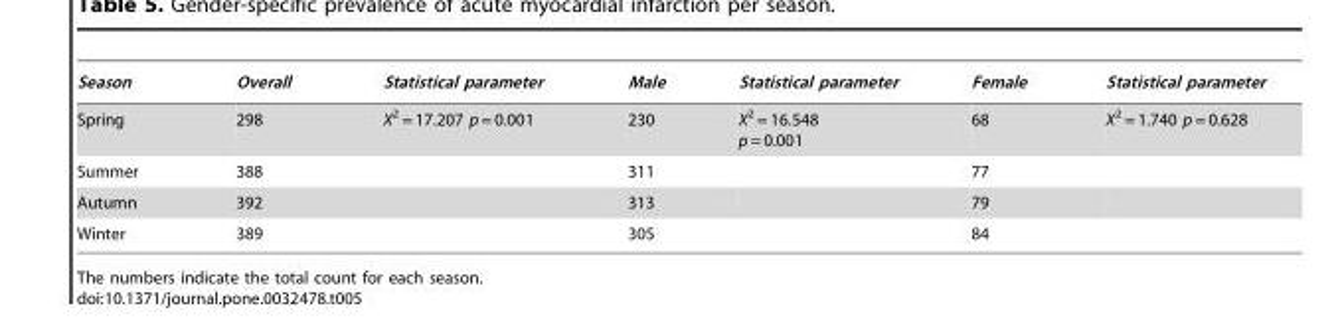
<table><thead><tr><td>Season</td><td>Overall</td><td>Statistical parameter</td><td>Male</td><td>Statistical parameter</td><td>Female</td><td>Statistical parameter</td></tr></thead><tbody><tr><td>Spring</td><td>298</td><td>X<sup>2</sup> = 17.207 p = 0.001</td><td>230</td><td>X<sup>2</sup> = 16.548 p = 0.001</td><td>68</td><td>X<sup>2</sup> = 1.740 p = 0.628</td></tr><tr><td>Summer</td><td>388</td><td></td><td>311</td><td></td><td>77</td><td></td></tr><tr><td>Autumn</td><td>392</td><td></td><td>313</td><td></td><td>79</td><td></td></tr><tr><td>Winter</td><td>389</td><td></td><td>305</td><td></td><td>84</td><td></td></tr></tbody></table>